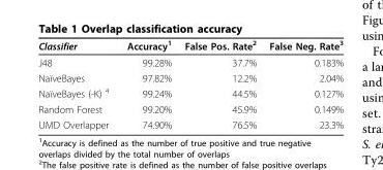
<table><thead><tr><td>Classifier</td><td>Accuracy<sup>1</sup></td><td>False Pos. Rate<sup>2</sup></td><td>False Neg. Rate<sup>3</sup></td></tr></thead><tbody><tr><td>J48</td><td>99.28%</td><td>37.7%</td><td>0.183%</td></tr><tr><td>NaïveBayes</td><td>97.82%</td><td>12.2%</td><td>2.04%</td></tr><tr><td>NaïveBayes (-K) <sup>4</sup></td><td>99.24%</td><td>44.5%</td><td>0.127%</td></tr><tr><td>Random Forest</td><td>99.20%</td><td>45.9%</td><td>0.149%</td></tr><tr><td>UMD Overlapper</td><td>74.90%</td><td>76.5%</td><td>23.3%</td></tr></tbody></table>